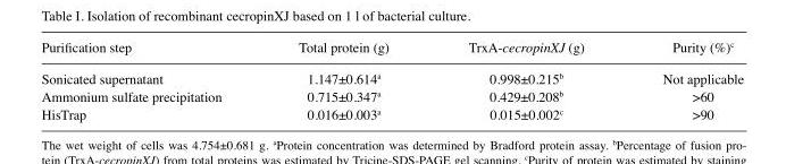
<table><thead><tr><td>Purification step</td><td>Total protein (g)</td><td>TrxA‑cecropinXJ (g)</td><td>Purity (%)<sup>c</sup></td></tr></thead><tbody><tr><td>Sonicated supernatant</td><td>1.147±0.614<sup>a</sup></td><td>0.998±0.215<sup>b</sup></td><td>Not applicable</td></tr><tr><td>Ammonium sulfate precipitation</td><td>0.715±0.347<sup>a</sup></td><td>0.429±0.208<sup>b</sup></td><td>﹥60</td></tr><tr><td>HisTrap</td><td>0.016±0.003<sup>a</sup></td><td>0.015±0.002<sup>c</sup></td><td>﹥90</td></tr></tbody></table>